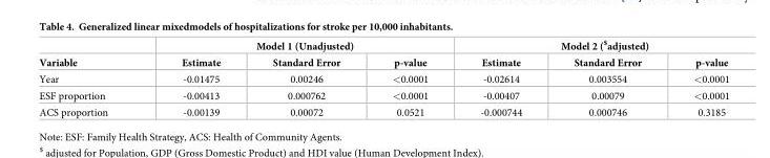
<table><thead><tr><td rowspan="2">Variable</td><td colspan="3">Model 1 (Unadjusted)</td><td colspan="3">Model 2 (<sup>$</sup>adjusted)</td></tr><tr><td>Estimate</td><td>Standard Error</td><td>p-value</td><td>Estimate</td><td>Standard Error</td><td>p-value</td></tr></thead><tbody><tr><td>Year</td><td>-0.01475</td><td>0.00246</td><td>&lt;0.0001</td><td>-0.02614</td><td>0.003554</td><td>&lt;0.0001</td></tr><tr><td>ESF proportion</td><td>-0.00413</td><td>0.000762</td><td>&lt;0.0001</td><td>-0.00407</td><td>0.00079</td><td>&lt;0.0001</td></tr><tr><td>ACS proportion</td><td>-0.00139</td><td>0.00072</td><td>0.0521</td><td>-0.000744</td><td>0.000746</td><td>0.3185</td></tr></tbody></table>